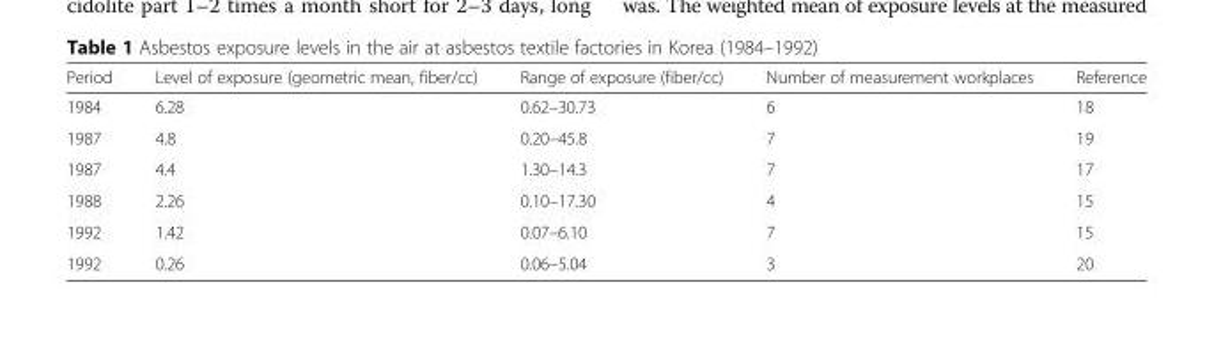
<table><thead><tr><td>Period</td><td>Level of exposure (geometric mean, fiber/cc)</td><td>Range of exposure (fiber/cc)</td><td>Number of measurement workplaces</td><td>Reference</td></tr></thead><tbody><tr><td>1984</td><td>6.28</td><td>0.62–30.73</td><td>6</td><td>18</td></tr><tr><td>1987</td><td>4.8</td><td>0.20–45.8</td><td>7</td><td>19</td></tr><tr><td>1987</td><td>4.4</td><td>1.30–14.3</td><td>7</td><td>17</td></tr><tr><td>1988</td><td>2.26</td><td>0.10–17.30</td><td>4</td><td>15</td></tr><tr><td>1992</td><td>1.42</td><td>0.07–6.10</td><td>7</td><td>15</td></tr><tr><td>1992</td><td>0.26</td><td>0.06–5.04</td><td>3</td><td>20</td></tr></tbody></table>